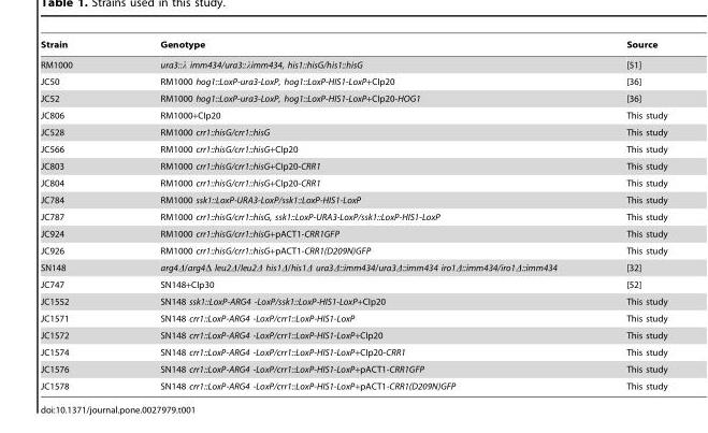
<table><thead><tr><td>Strain</td><td>Genotype</td><td>Source</td></tr></thead><tbody><tr><td>RM1000</td><td>ura3::λ imm434/ura3::λimm434, his1::hisG/his1::hisG</td><td>[51]</td></tr><tr><td>JC50</td><td>RM1000 hog1::LoxP-ura3-LoxP, hog1::LoxP-HIS1-LoxP+CIp20</td><td>[36]</td></tr><tr><td>JC52</td><td>RM1000 hog1::LoxP-ura3-LoxP, hog1::LoxP-HIS1-LoxP+CIp20-HOG1</td><td>[36]</td></tr><tr><td>JC806</td><td>RM1000+CIp20</td><td>This study</td></tr><tr><td>JC528</td><td>RM1000 crr1::hisG/crr1::hisG</td><td>This study</td></tr><tr><td>JC566</td><td>RM1000 crr1::hisG/crr1::hisG+CIp20</td><td>This study</td></tr><tr><td>JC803</td><td>RM1000 crr1::hisG/crr1::hisG+CIp20-CRR1</td><td>This study</td></tr><tr><td>JC804</td><td>RM1000 crr1::hisG/crr1::hisG+CIp20-CRR1</td><td>This study</td></tr><tr><td>JC784</td><td>RM1000 ssk1::LoxP-URA3-LoxP/ssk1::LoxP-HIS1-LoxP</td><td>This study</td></tr><tr><td>JC787</td><td>RM1000 crr1::hisG/crr1::hisG, ssk1::LoxP-URA3-LoxP/ssk1::LoxP-HIS1-LoxP</td><td>This study</td></tr><tr><td>JC924</td><td>RM1000 crr1::hisG/crr1::hisG+pACT1-CRR1GFP</td><td>This study</td></tr><tr><td>JC926</td><td>RM1000 crr1::hisG/crr1::hisG+pACT1-CRR1(D209N)GFP</td><td>This study</td></tr><tr><td>SN148</td><td>arg4Δ/arg4Δ leu2Δ/leu2Δ his1Δ/his1Δ ura3Δ::imm434/ura3Δ::imm434 iro1Δ::imm434/iro1Δ::imm434</td><td>[32]</td></tr><tr><td>JC747</td><td>SN148+CIp30</td><td>[52]</td></tr><tr><td>JC1552</td><td>SN148 ssk1::LoxP-ARG4 -LoxP/ssk1::LoxP-HIS1-LoxP+CIp20</td><td>This study</td></tr><tr><td>JC1571</td><td>SN148 crr1::LoxP-ARG4 -LoxP/crr1::LoxP-HIS1-LoxP</td><td>This study</td></tr><tr><td>JC1572</td><td>SN148 crr1::LoxP-ARG4 -LoxP/crr1::LoxP-HIS1-LoxP+CIp20</td><td>This study</td></tr><tr><td>JC1574</td><td>SN148 crr1::LoxP-ARG4 -LoxP/crr1::LoxP-HIS1-LoxP+CIp20-CRR1</td><td>This study</td></tr><tr><td>JC1576</td><td>SN148 crr1::LoxP-ARG4 -LoxP/crr1::LoxP-HIS1-LoxP+pACT1-CRR1GFP</td><td>This study</td></tr><tr><td>JC1578</td><td>SN148 crr1::LoxP-ARG4 -LoxP/crr1::LoxP-HIS1-LoxP+pACT1-CRR1(D209N)GFP</td><td>This study</td></tr></tbody></table>